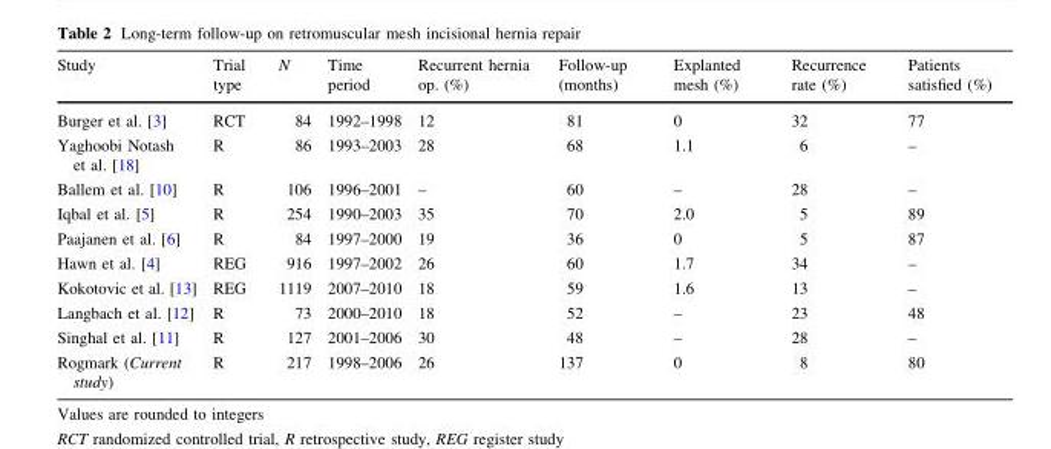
<table><thead><tr><td>Study</td><td>Trial type</td><td>N</td><td>Time period</td><td>Recurrent hernia op. (%)</td><td>Follow-up (months)</td><td>Explanted mesh (%)</td><td>Recurrence rate (%)</td><td>Patients satisfied (%)</td></tr></thead><tbody><tr><td>Burger et al. [3]</td><td>RCT</td><td>84</td><td>1992–1998</td><td>12</td><td>81</td><td>0</td><td>32</td><td>77</td></tr><tr><td>Yaghoobi Notash et al. [18]</td><td>R</td><td>86</td><td>1993–2003</td><td>28</td><td>68</td><td>1.1</td><td>6</td><td>–</td></tr><tr><td>Ballem et al. [10]</td><td>R</td><td>106</td><td>1996–2001</td><td>–</td><td>60</td><td>–</td><td>28</td><td>–</td></tr><tr><td>Iqbal et al. [5]</td><td>R</td><td>254</td><td>1990–2003</td><td>35</td><td>70</td><td>2.0</td><td>5</td><td>89</td></tr><tr><td>Paajanen et al. [6]</td><td>R</td><td>84</td><td>1997–2000</td><td>19</td><td>36</td><td>0</td><td>5</td><td>87</td></tr><tr><td>Hawn et al. [4]</td><td>REG</td><td>916</td><td>1997–2002</td><td>26</td><td>60</td><td>1.7</td><td>34</td><td>–</td></tr><tr><td>Kokotovic et al. [13]</td><td>REG</td><td>1119</td><td>2007–2010</td><td>18</td><td>59</td><td>1.6</td><td>13</td><td>–</td></tr><tr><td>Langbach et al. [12]</td><td>R</td><td>73</td><td>2000–2010</td><td>18</td><td>52</td><td>–</td><td>23</td><td>48</td></tr><tr><td>Singhal et al. [11]</td><td>R</td><td>127</td><td>2001–2006</td><td>30</td><td>48</td><td>–</td><td>28</td><td>–</td></tr><tr><td>Rogmark (Current study)</td><td>R</td><td>217</td><td>1998–2006</td><td>26</td><td>137</td><td>0</td><td>8</td><td>80</td></tr></tbody></table>